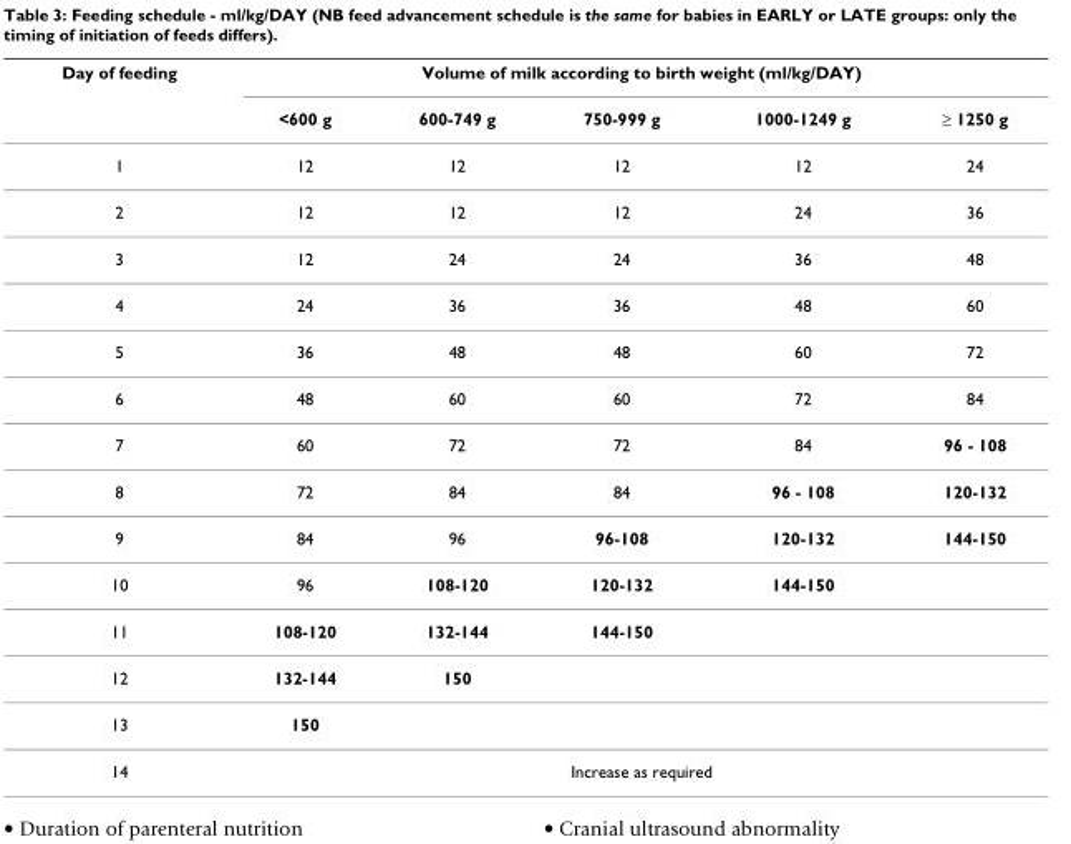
<table><thead><tr><td rowspan="2">Day of feeding</td><td colspan="5">Volume of milk according to birth weight (ml/kg/DAY)</td></tr><tr><td>&lt;600 g</td><td>600-749 g</td><td>750-999 g</td><td>1000-1249 g</td><td>≥ 1250 g</td></tr></thead><tbody><tr><td>1</td><td>12</td><td>12</td><td>12</td><td>12</td><td>24</td></tr><tr><td>2</td><td>12</td><td>12</td><td>12</td><td>24</td><td>36</td></tr><tr><td>3</td><td>12</td><td>24</td><td>24</td><td>36</td><td>48</td></tr><tr><td>4</td><td>24</td><td>36</td><td>36</td><td>48</td><td>60</td></tr><tr><td>5</td><td>36</td><td>48</td><td>48</td><td>60</td><td>72</td></tr><tr><td>6</td><td>48</td><td>60</td><td>60</td><td>72</td><td>84</td></tr><tr><td>7</td><td>60</td><td>72</td><td>72</td><td>84</td><td>96 - 108</td></tr><tr><td>8</td><td>72</td><td>84</td><td>84</td><td>96 - 108</td><td>120-132</td></tr><tr><td>9</td><td>84</td><td>96</td><td>96-108</td><td>120-132</td><td>144-150</td></tr><tr><td>10</td><td>96</td><td>108-120</td><td>120-132</td><td>144-150</td><td></td></tr><tr><td>11</td><td>108-120</td><td>132-144</td><td>144-150</td><td></td><td></td></tr><tr><td>12</td><td>132-144</td><td>150</td><td></td><td></td><td></td></tr><tr><td>13</td><td>150</td><td></td><td></td><td></td><td></td></tr><tr><td>14</td><td colspan="5">Increase as required</td></tr></tbody></table>